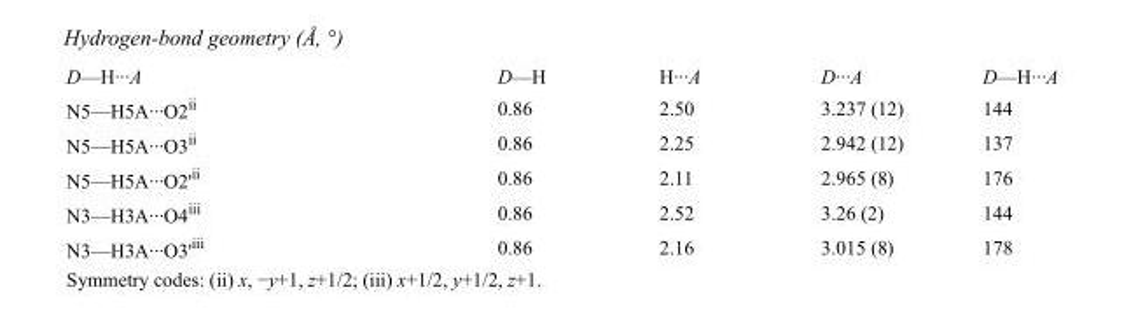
<table><tbody><tr><td>D—H···A</td><td>D—H</td><td>H···A</td><td>D···A</td><td>D—H···A</td></tr><tr><td>N5—H5A···O2<sup>ii</sup></td><td>0.86</td><td>2.50</td><td>3.237 (12)</td><td>144</td></tr><tr><td>N5—H5A···O3<sup>ii</sup></td><td>0.86</td><td>2.25</td><td>2.942 (12)</td><td>137</td></tr><tr><td>N5—H5A···O2&#x27;<sup>ii</sup></td><td>0.86</td><td>2.11</td><td>2.965 (8)</td><td>176</td></tr><tr><td>N3—H3A···O4<sup>iii</sup></td><td>0.86</td><td>2.52</td><td>3.26 (2)</td><td>144</td></tr><tr><td>N3—H3A···O3&#x27;<sup>iii</sup></td><td>0.86</td><td>2.16</td><td>3.015 (8)</td><td>178</td></tr></tbody></table>